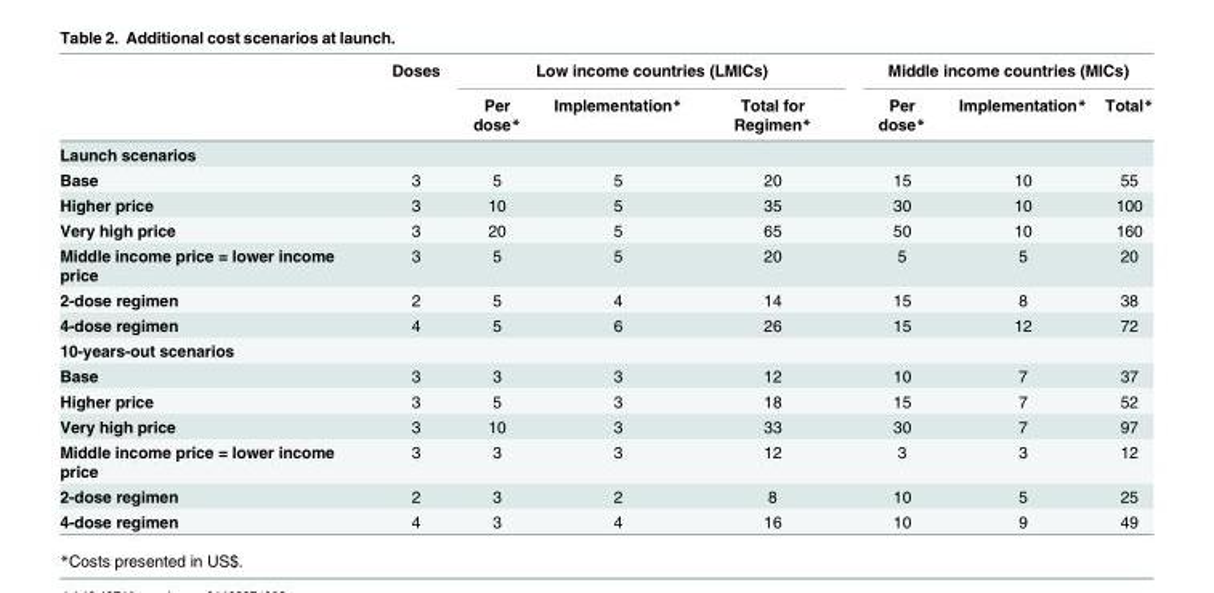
<table><thead><tr><td rowspan="2"></td><td rowspan="2">Doses</td><td colspan="3">Low income countries (LMICs)</td><td colspan="3">Middle income countries (MICs)</td></tr><tr><td>Per dose*</td><td>Implementation*</td><td>Total for Regimen*</td><td>Per dose*</td><td>Implementation*</td><td>Total*</td></tr></thead><tbody><tr><td colspan="8">Launch scenarios</td></tr><tr><td>Base</td><td>3</td><td>5</td><td>5</td><td>20</td><td>15</td><td>10</td><td>55</td></tr><tr><td>Higher price</td><td>3</td><td>10</td><td>5</td><td>35</td><td>30</td><td>10</td><td>100</td></tr><tr><td>Very high price</td><td>3</td><td>20</td><td>5</td><td>65</td><td>50</td><td>10</td><td>160</td></tr><tr><td>Middle income price = lower income price</td><td>3</td><td>5</td><td>5</td><td>20</td><td>5</td><td>5</td><td>20</td></tr><tr><td>2-dose regimen</td><td>2</td><td>5</td><td>4</td><td>14</td><td>15</td><td>8</td><td>38</td></tr><tr><td>4-dose regimen</td><td>4</td><td>5</td><td>6</td><td>26</td><td>15</td><td>12</td><td>72</td></tr><tr><td colspan="8">10-years-out scenarios</td></tr><tr><td>Base</td><td>3</td><td>3</td><td>3</td><td>12</td><td>10</td><td>7</td><td>37</td></tr><tr><td>Higher price</td><td>3</td><td>5</td><td>3</td><td>18</td><td>15</td><td>7</td><td>52</td></tr><tr><td>Very high price</td><td>3</td><td>10</td><td>3</td><td>33</td><td>30</td><td>7</td><td>97</td></tr><tr><td>Middle income price = lower income price</td><td>3</td><td>3</td><td>3</td><td>12</td><td>3</td><td>3</td><td>12</td></tr><tr><td>2-dose regimen</td><td>2</td><td>3</td><td>2</td><td>8</td><td>10</td><td>5</td><td>25</td></tr><tr><td>4-dose regimen</td><td>4</td><td>3</td><td>4</td><td>16</td><td>10</td><td>9</td><td>49</td></tr></tbody></table>